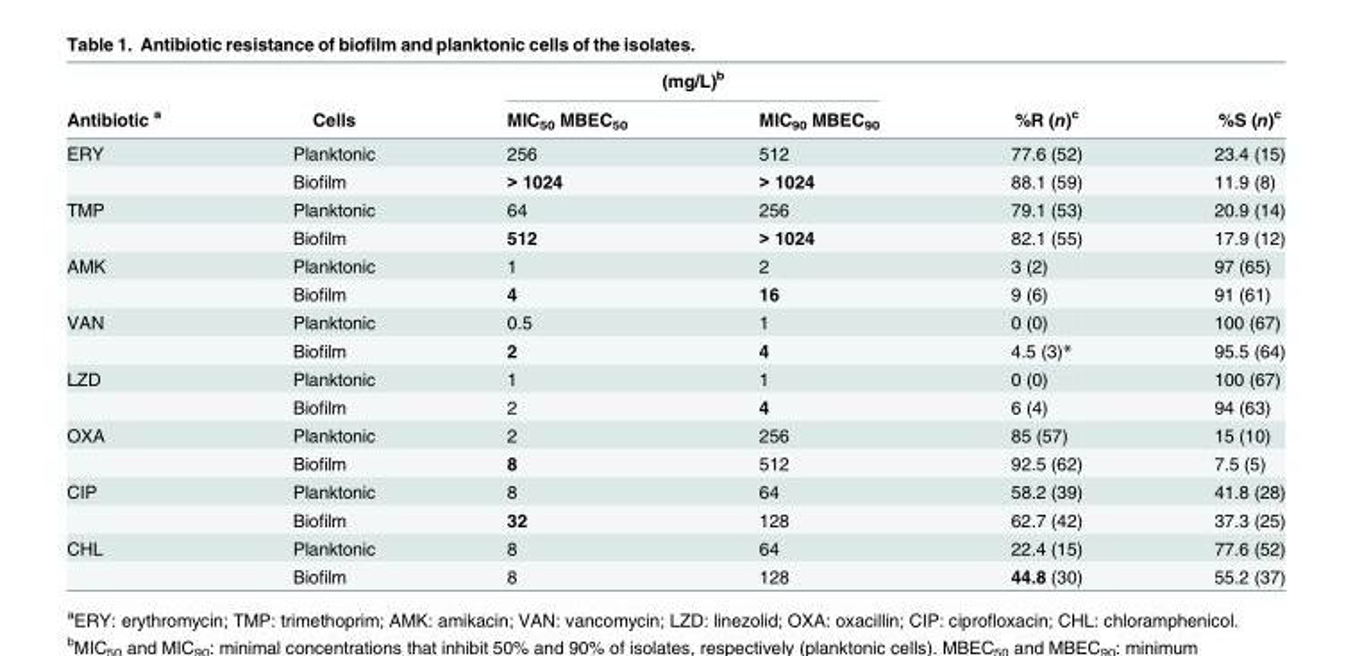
<table><thead><tr><td rowspan="2">Antibiotic <sup>a</sup></td><td rowspan="2">Cells</td><td colspan="2">(mg/L)<sup>b</sup></td><td rowspan="2">%R (n)<sup>c</sup></td><td rowspan="2">%S (n)<sup>c</sup></td></tr><tr><td>MIC<sub>50</sub> MBEC<sub>50</sub></td><td>MIC<sub>90</sub> MBEC<sub>90</sub></td></tr></thead><tbody><tr><td rowspan="2">ERY</td><td>Planktonic</td><td>256</td><td>512</td><td>77.6 (52)</td><td>23.4 (15)</td></tr><tr><td>Biofilm</td><td>&gt; 1024</td><td>&gt; 1024</td><td>88.1 (59)</td><td>11.9 (8)</td></tr><tr><td rowspan="2">TMP</td><td>Planktonic</td><td>64</td><td>256</td><td>79.1 (53)</td><td>20.9 (14)</td></tr><tr><td>Biofilm</td><td>512</td><td>&gt; 1024</td><td>82.1 (55)</td><td>17.9 (12)</td></tr><tr><td rowspan="2">AMK</td><td>Planktonic</td><td>1</td><td>2</td><td>3 (2)</td><td>97 (65)</td></tr><tr><td>Biofilm</td><td>4</td><td>16</td><td>9 (6)</td><td>91 (61)</td></tr><tr><td rowspan="2">VAN</td><td>Planktonic</td><td>0.5</td><td>1</td><td>0 (0)</td><td>100 (67)</td></tr><tr><td>Biofilm</td><td>2</td><td>4</td><td>4.5 (3)*</td><td>95.5 (64)</td></tr><tr><td rowspan="2">LZD</td><td>Planktonic</td><td>1</td><td>1</td><td>0 (0)</td><td>100 (67)</td></tr><tr><td>Biofilm</td><td>2</td><td>4</td><td>6 (4)</td><td>94 (63)</td></tr><tr><td rowspan="2">OXA</td><td>Planktonic</td><td>2</td><td>256</td><td>85 (57)</td><td>15 (10)</td></tr><tr><td>Biofilm</td><td>8</td><td>512</td><td>92.5 (62)</td><td>7.5 (5)</td></tr><tr><td rowspan="2">CIP</td><td>Planktonic</td><td>8</td><td>64</td><td>58.2 (39)</td><td>41.8 (28)</td></tr><tr><td>Biofilm</td><td>32</td><td>128</td><td>62.7 (42)</td><td>37.3 (25)</td></tr><tr><td rowspan="2">CHL</td><td>Planktonic</td><td>8</td><td>64</td><td>22.4 (15)</td><td>77.6 (52)</td></tr><tr><td>Biofilm</td><td>8</td><td>128</td><td>44.8 (30)</td><td>55.2 (37)</td></tr></tbody></table>